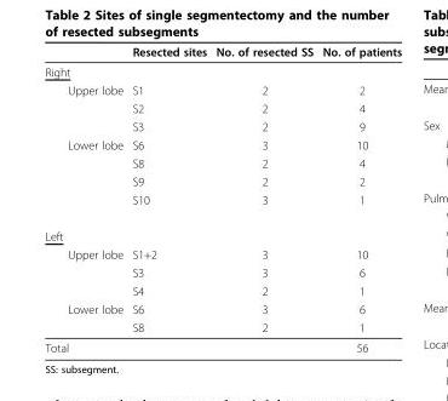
<table><thead><tr><td></td><td>Resected sites</td><td>No. of resected SS</td><td>No. of patients</td></tr></thead><tbody><tr><td colspan="4">Right</td></tr><tr><td rowspan="3">Upper lobe</td><td>S1</td><td>2</td><td>2</td></tr><tr><td>S2</td><td>2</td><td>4</td></tr><tr><td>S3</td><td>2</td><td>9</td></tr><tr><td rowspan="4">Lower lobe</td><td>S6</td><td>3</td><td>10</td></tr><tr><td>S8</td><td>2</td><td>4</td></tr><tr><td>S9</td><td>2</td><td>2</td></tr><tr><td>S10</td><td>3</td><td>1</td></tr><tr><td colspan="4">Left</td></tr><tr><td rowspan="3">Upper lobe</td><td>S1+2</td><td>3</td><td>10</td></tr><tr><td>S3</td><td>3</td><td>6</td></tr><tr><td>S4</td><td>2</td><td>1</td></tr><tr><td rowspan="2">Lower lobe</td><td>S6</td><td>3</td><td>6</td></tr><tr><td>S8</td><td>2</td><td>1</td></tr><tr><td>Total</td><td></td><td></td><td>56</td></tr></tbody></table>